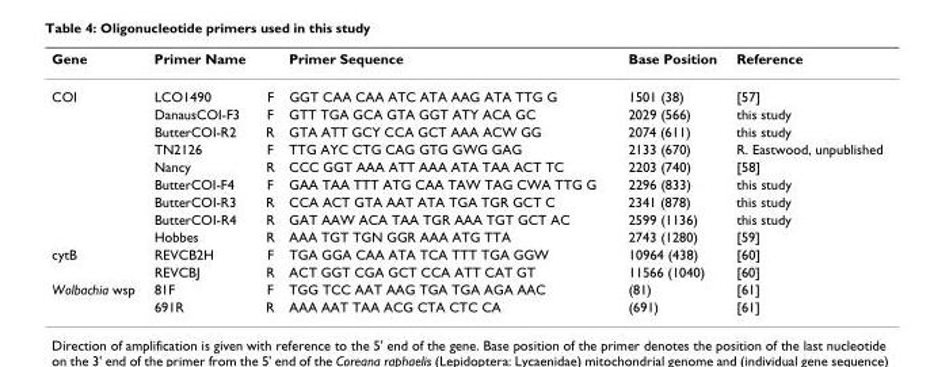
<table><thead><tr><td>Gene</td><td>Primer Name</td><td></td><td>Primer Sequence</td><td>Base Position</td><td>Reference</td></tr></thead><tbody><tr><td rowspan="9">COI</td><td>LCO1490</td><td>F</td><td>GGT CAA CAA ATC ATA AAG ATA TTG G</td><td>1501 (38)</td><td>[57]</td></tr><tr><td>DanausCOI-F3</td><td>F</td><td>GTT TGA GCA GTA GGT ATY ACA GC</td><td>2029 (566)</td><td>this study</td></tr><tr><td>ButterCOI-R2</td><td>R</td><td>GTA ATT GCY CCA GCT AAA ACW GG</td><td>2074 (611)</td><td>this study</td></tr><tr><td>TN2126</td><td>F</td><td>TTG AYC CTG CAG GTG GWG GAG</td><td>2133 (670)</td><td>R. Eastwood, unpublished</td></tr><tr><td>Nancy</td><td>R</td><td>CCC GGT AAA ATT AAA ATA TAA ACT TC</td><td>2203 (740)</td><td>[58]</td></tr><tr><td>ButterCOI-F4</td><td>F</td><td>GAA TAA TTT ATG CAA TAW TAG CWA TTG G</td><td>2296 (833)</td><td>this study</td></tr><tr><td>ButterCOI-R3</td><td>R</td><td>CCA ACT GTA AAT ATA TGA TGR GCT C</td><td>2341 (878)</td><td>this study</td></tr><tr><td>ButterCOI-R4</td><td>R</td><td>GAT AAW ACA TAA TGR AAA TGT GCT AC</td><td>2599 (1136)</td><td>this study</td></tr><tr><td>Hobbes</td><td>R</td><td>AAA TGT TGN GGR AAA ATG TTA</td><td>2743 (1280)</td><td>[59]</td></tr><tr><td rowspan="2">cytB</td><td>REVCB2H</td><td>F</td><td>TGA GGA CAA ATA TCA TTT TGA GGW</td><td>10964 (438)</td><td>[60]</td></tr><tr><td>REVCBJ</td><td>R</td><td>ACT GGT CGA GCT CCA ATT CAT GT</td><td>11566 (1040)</td><td>[60]</td></tr><tr><td rowspan="2">Wolbachia wsp</td><td>81F</td><td>F</td><td>TGG TCC AAT AAG TGA TGA AGA AAC</td><td>(81)</td><td>[61]</td></tr><tr><td>691R</td><td>R</td><td>AAA AAT TAA ACG CTA CTC CA</td><td>(691)</td><td>[61]</td></tr></tbody></table>